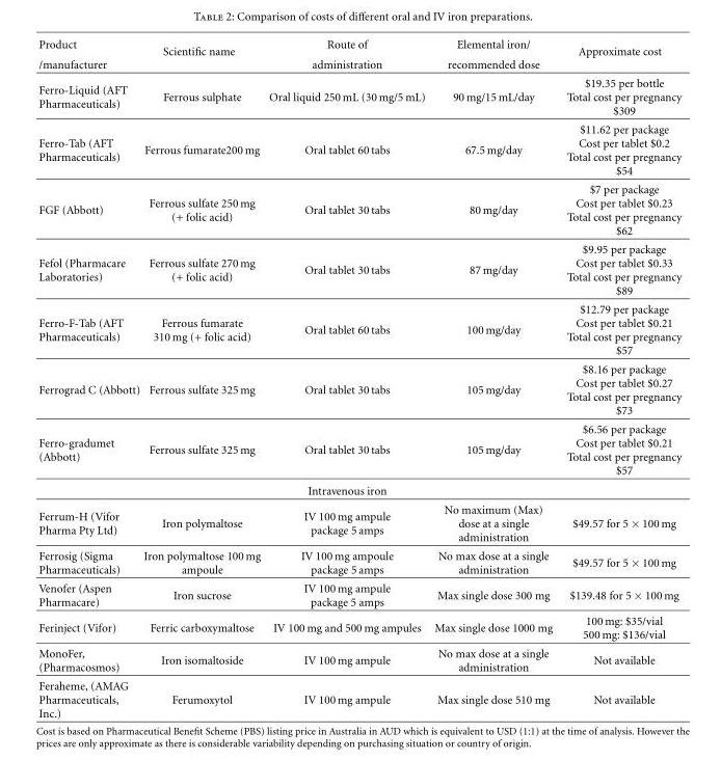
<table><thead><tr><td rowspan="2">Product /manufacturer</td><td rowspan="2">Scientific name</td><td rowspan="2">Route of administration</td><td rowspan="2">Elemental iron/ recommended dose</td><td rowspan="2">Approximate cost</td></tr><tr></tr></thead><tbody><tr><td>Ferro-Liquid (AFT Pharmaceuticals)</td><td>Ferrous sulphate</td><td>Oral liquid 250 mL (30 mg/5 mL)</td><td>90 mg/15 mL/day</td><td>$19.35 per bottle Total cost per pregnancy $309</td></tr><tr><td>Ferro-Tab (AFT Pharmaceuticals)</td><td>Ferrous fumarate200 mg</td><td>Oral tablet 60 tabs</td><td>67.5 mg/day</td><td>$11.62 per package Cost per tablet $0.2 Total cost per pregnancy $54</td></tr><tr><td>FGF (Abbott)</td><td>Ferrous sulfate 250 mg (+ folic acid)</td><td>Oral tablet 30 tabs</td><td>80 mg/day</td><td>$7 per package Cost per tablet $0.23 Total cost per pregnancy $62</td></tr><tr><td>Fefol (Pharmacare Laboratories)</td><td>Ferrous sulfate 270 mg (+ folic acid)</td><td>Oral tablet 30 tabs</td><td>87 mg/day</td><td>$9.95 per package Cost per tablet $0.33 Total cost per pregnancy $89</td></tr><tr><td>Ferro-F-Tab (AFT Pharmaceuticals)</td><td>Ferrous fumarate 310 mg (+ folic acid)</td><td>Oral tablet 60 tabs</td><td>100 mg/day</td><td>$12.79 per package Cost per tablet $0.21 Total cost per pregnancy $57</td></tr><tr><td>Ferrograd C (Abbott)</td><td>Ferrous sulfate 325 mg</td><td>Oral tablet 30 tabs</td><td>105 mg/day</td><td>$8.16 per package Cost per tablet $0.27 Total cost per pregnancy $73</td></tr><tr><td rowspan="2">Ferro-gradumet (Abbott)</td><td>Ferrous sulfate 325 mg</td><td>Oral tablet 30 tabs</td><td>105 mg/day</td><td>$6.56 per package Cost per tablet $0.21 Total cost per pregnancy $57</td></tr><tr><td></td><td>Intravenous iron</td><td></td><td></td></tr><tr><td>Ferrum-H (Vifor Pharma Pty Ltd)</td><td>Iron polymaltose</td><td>IV 100 mg ampule package 5 amps</td><td>No maximum (Max) dose at a single administration</td><td>$49.57 for 5 × 100 mg</td></tr><tr><td>Ferrosig (Sigma Pharmaceuticals)</td><td>Iron polymaltose 100 mg ampoule</td><td>IV 100 mg ampoule package 5 amps</td><td>No max dose at a single administration</td><td>$49.57 for 5 × 100 mg</td></tr><tr><td>Venofer (Aspen Pharmacare)</td><td>Iron sucrose</td><td>IV 100 mg ampule package 5 amps</td><td>Max single dose 300 mg</td><td>$139.48 for 5 × 100 mg</td></tr><tr><td>Ferinject (Vifor)</td><td>Ferric carboxymaltose</td><td>IV 100 mg and 500 mg ampules</td><td>Max single dose 1000 mg</td><td>100 mg: $35/vial 500 mg: $136/vial</td></tr><tr><td>MonoFer, (Pharmacosmos)</td><td>Iron isomaltoside</td><td>IV 100 mg ampule</td><td>No max dose at a single administration</td><td>Not available</td></tr><tr><td>Feraheme, (AMAG Pharmaceuticals, Inc.)</td><td>Ferumoxytol</td><td>IV 100 mg ampule</td><td>Max single dose 510 mg</td><td>Not available</td></tr></tbody></table>